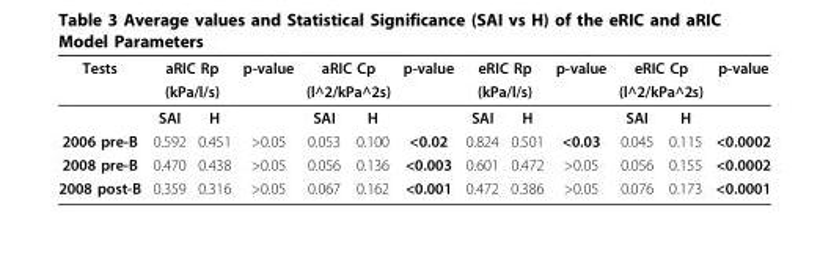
<table><thead><tr><td rowspan="3">Tests</td><td rowspan="2" colspan="2">aRIC Rp (kPa/l/s)</td><td rowspan="3">p-value</td><td rowspan="2" colspan="2">aRIC Cp (l^2/kPa^2s)</td><td rowspan="3">p-value</td><td rowspan="2" colspan="2">eRIC Rp (kPa/l/s)</td><td rowspan="3">p-value</td><td rowspan="2" colspan="2">eRIC Cp (l^2/kPa^2s)</td><td rowspan="3">p-value</td></tr><tr></tr><tr><td>SAI</td><td>H</td><td>SAI</td><td>H</td><td>SAI</td><td>H</td><td>SAI</td><td>H</td></tr></thead><tbody><tr><td>2006 pre-B</td><td>0.592</td><td>0.451</td><td>&gt;0.05</td><td>0.053</td><td>0.100</td><td>&lt;0.02</td><td>0.824</td><td>0.501</td><td>&lt;0.03</td><td>0.045</td><td>0.115</td><td>&lt;0.0002</td></tr><tr><td>2008 pre-B</td><td>0.470</td><td>0.438</td><td>&gt;0.05</td><td>0.056</td><td>0.136</td><td>&lt;0.003</td><td>0.601</td><td>0.472</td><td>&gt;0.05</td><td>0.056</td><td>0.155</td><td>&lt;0.0002</td></tr><tr><td>2008 post-B</td><td>0.359</td><td>0.316</td><td>&gt;0.05</td><td>0.067</td><td>0.162</td><td>&lt;0.001</td><td>0.472</td><td>0.386</td><td>&gt;0.05</td><td>0.076</td><td>0.173</td><td>&lt;0.0001</td></tr></tbody></table>